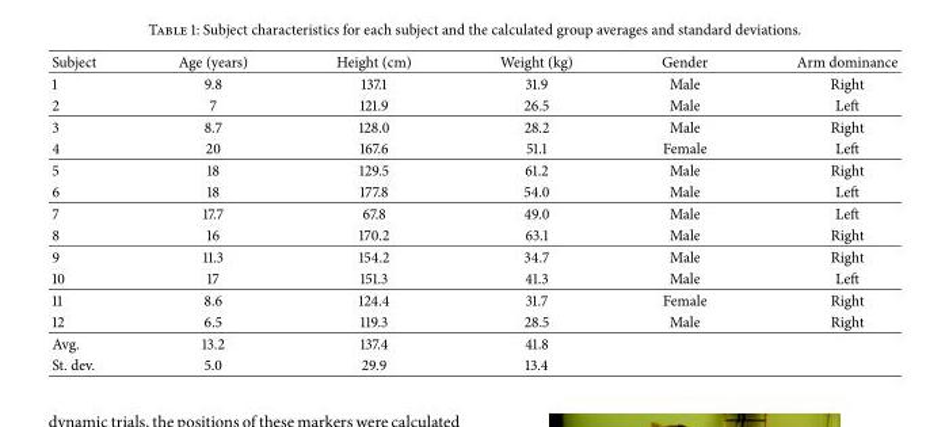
<table><thead><tr><td>Subject</td><td>Age (years)</td><td>Height (cm)</td><td>Weight (kg)</td><td>Gender</td><td>Arm dominance</td></tr></thead><tbody><tr><td>1</td><td>9.8</td><td>137.1</td><td>31.9</td><td>Male</td><td>Right</td></tr><tr><td>2</td><td>7</td><td>121.9</td><td>26.5</td><td>Male</td><td>Left</td></tr><tr><td>3</td><td>8.7</td><td>128.0</td><td>28.2</td><td>Male</td><td>Right</td></tr><tr><td>4</td><td>20</td><td>167.6</td><td>51.1</td><td>Female</td><td>Left</td></tr><tr><td>5</td><td>18</td><td>129.5</td><td>61.2</td><td>Male</td><td>Right</td></tr><tr><td>6</td><td>18</td><td>177.8</td><td>54.0</td><td>Male</td><td>Left</td></tr><tr><td>7</td><td>17.7</td><td>67.8</td><td>49.0</td><td>Male</td><td>Left</td></tr><tr><td>8</td><td>16</td><td>170.2</td><td>63.1</td><td>Male</td><td>Right</td></tr><tr><td>9</td><td>11.3</td><td>154.2</td><td>34.7</td><td>Male</td><td>Right</td></tr><tr><td>10</td><td>17</td><td>151.3</td><td>41.3</td><td>Male</td><td>Left</td></tr><tr><td>11</td><td>8.6</td><td>124.4</td><td>31.7</td><td>Female</td><td>Right</td></tr><tr><td>12</td><td>6.5</td><td>119.3</td><td>28.5</td><td>Male</td><td>Right</td></tr><tr><td>Avg.</td><td>13.2</td><td>137.4</td><td>41.8</td><td></td><td></td></tr><tr><td>St. dev.</td><td>5.0</td><td>29.9</td><td>13.4</td><td></td><td></td></tr></tbody></table>